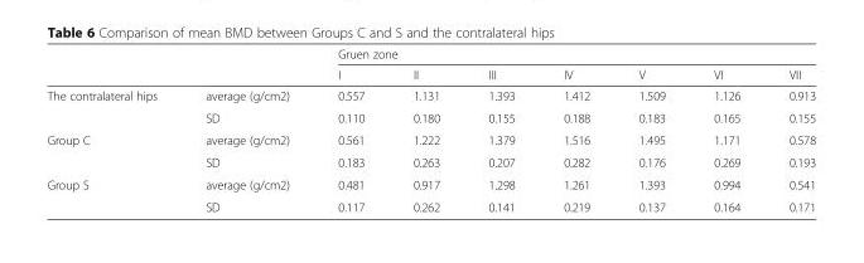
<table><thead><tr><td rowspan="2"></td><td rowspan="2"></td><td colspan="7">Gruen zone</td></tr><tr><td>I</td><td>II</td><td>III</td><td>IV</td><td>V</td><td>VI</td><td>VII</td></tr></thead><tbody><tr><td rowspan="2">The contralateral hips</td><td>average (g/cm2)</td><td>0.557</td><td>1.131</td><td>1.393</td><td>1.412</td><td>1.509</td><td>1.126</td><td>0.913</td></tr><tr><td>SD</td><td>0.110</td><td>0.180</td><td>0.155</td><td>0.188</td><td>0.183</td><td>0.165</td><td>0.155</td></tr><tr><td rowspan="2">Group C</td><td>average (g/cm2)</td><td>0.561</td><td>1.222</td><td>1.379</td><td>1.516</td><td>1.495</td><td>1.171</td><td>0.578</td></tr><tr><td>SD</td><td>0.183</td><td>0.263</td><td>0.207</td><td>0.282</td><td>0.176</td><td>0.269</td><td>0.193</td></tr><tr><td rowspan="2">Group S</td><td>average (g/cm2)</td><td>0.481</td><td>0.917</td><td>1.298</td><td>1.261</td><td>1.393</td><td>0.994</td><td>0.541</td></tr><tr><td>SD</td><td>0.117</td><td>0.262</td><td>0.141</td><td>0.219</td><td>0.137</td><td>0.164</td><td>0.171</td></tr></tbody></table>